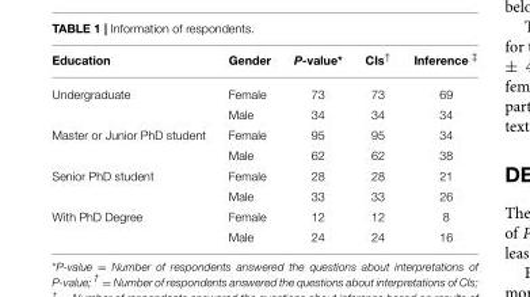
<table><thead><tr><td>Education</td><td>Gender</td><td>P-value*</td><td>CIs<sup>†</sup></td><td>Inference <sup>‡</sup></td></tr></thead><tbody><tr><td rowspan="2">Undergraduate</td><td>Female</td><td>73</td><td>73</td><td>69</td></tr><tr><td>Male</td><td>34</td><td>34</td><td>34</td></tr><tr><td rowspan="2">Master or Junior PhD student</td><td>Female</td><td>95</td><td>95</td><td>34</td></tr><tr><td>Male</td><td>62</td><td>62</td><td>38</td></tr><tr><td rowspan="2">Senior PhD student</td><td>Female</td><td>28</td><td>28</td><td>21</td></tr><tr><td>Male</td><td>33</td><td>33</td><td>26</td></tr><tr><td rowspan="2">With PhD Degree</td><td>Female</td><td>12</td><td>12</td><td>8</td></tr><tr><td>Male</td><td>24</td><td>24</td><td>16</td></tr></tbody></table>